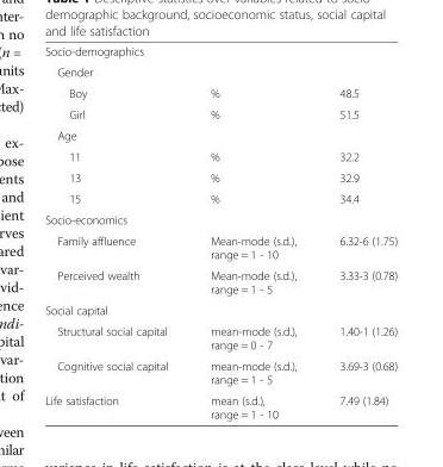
<table><tbody><tr><td colspan="3">Socio-demographics</td></tr><tr><td colspan="3">Gender</td></tr><tr><td>Boy</td><td>%</td><td>48.5</td></tr><tr><td>Girl</td><td>%</td><td>51.5</td></tr><tr><td colspan="3">Age</td></tr><tr><td>11</td><td>%</td><td>32.2</td></tr><tr><td>13</td><td>%</td><td>32.9</td></tr><tr><td>15</td><td>%</td><td>34.4</td></tr><tr><td colspan="3">Socio-economics</td></tr><tr><td>Family affluence</td><td>Mean-mode (s.d.), range = 1 - 10</td><td>6.32-6 (1.75)</td></tr><tr><td>Perceived wealth</td><td>Mean-mode (s.d.), range = 1 - 5</td><td>3.33-3 (0.78)</td></tr><tr><td colspan="3">Social capital</td></tr><tr><td>Structural social capital</td><td>mean-mode (s.d.), range = 0 - 7</td><td>1.40-1 (1.26)</td></tr><tr><td>Cognitive social capital</td><td>mean-mode (s.d.), range = 1 - 5</td><td>3.69-3 (0.68)</td></tr><tr><td>Life satisfaction</td><td>mean (s.d.), range = 1 - 10</td><td>7.49 (1.84)</td></tr></tbody></table>